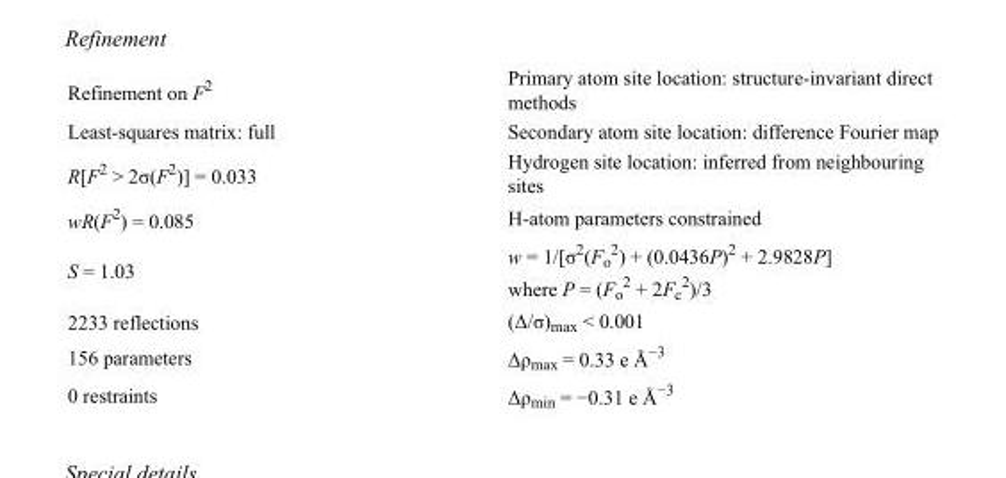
<table><tbody><tr><td>Refinement on F<sup>2</sup></td><td>Primary atom site location: structure-invariant direct methods</td></tr><tr><td>Least-squares matrix: full</td><td>Secondary atom site location: difference Fourier map</td></tr><tr><td>R[F<sup>2</sup> &gt; 2σ(F<sup>2</sup>)] = 0.033</td><td>Hydrogen site location: inferred from neighbouring sites</td></tr><tr><td>wR(F<sup>2</sup>) = 0.085</td><td>H-atom parameters constrained</td></tr><tr><td>S = 1.03</td><td>w = 1/[σ<sup>2</sup>(F<sub>o</sub> <sup>2</sup>) + (0.0436P)<sup>2</sup> + 2.9828P] where P = (F<sub>o</sub> <sup>2</sup> + 2F<sub>c</sub> <sup>2</sup>)/3</td></tr><tr><td>2233 reflections</td><td>(Δ/σ)<sub>max</sub> &lt; 0.001</td></tr><tr><td>156 parameters</td><td>Δρ<sub>max</sub> = 0.33 e Å<sup>−3</sup></td></tr><tr><td>0 restraints</td><td>Δρ<sub>min</sub> = −0.31 e Å<sup>−3</sup></td></tr></tbody></table>